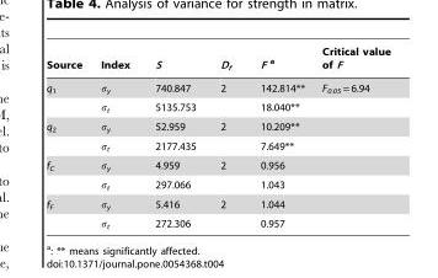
<table><thead><tr><td>Source</td><td>Index</td><td>S</td><td>D<sub>f</sub></td><td>F a</td><td>Critical value of F</td></tr></thead><tbody><tr><td rowspan="2">q<sub>1</sub></td><td>σ<sub>y</sub></td><td>740.847</td><td>2</td><td>142.814**</td><td>F<sub>0.05</sub> = 6.94</td></tr><tr><td>σ<sub>t</sub></td><td>5135.753</td><td></td><td>18.040**</td><td></td></tr><tr><td rowspan="2">q<sub>2</sub></td><td>σ<sub>y</sub></td><td>52.959</td><td>2</td><td>10.209**</td><td></td></tr><tr><td>σ<sub>t</sub></td><td>2177.435</td><td></td><td>7.649**</td><td></td></tr><tr><td rowspan="2">f<sub>C</sub></td><td>σ<sub>y</sub></td><td>4.959</td><td>2</td><td>0.956</td><td></td></tr><tr><td>σ<sub>t</sub></td><td>297.066</td><td></td><td>1.043</td><td></td></tr><tr><td rowspan="2">f<sub>F</sub></td><td>σ<sub>y</sub></td><td>5.416</td><td>2</td><td>1.044</td><td></td></tr><tr><td>σ<sub>t</sub></td><td>272.306</td><td></td><td>0.957</td><td></td></tr></tbody></table>